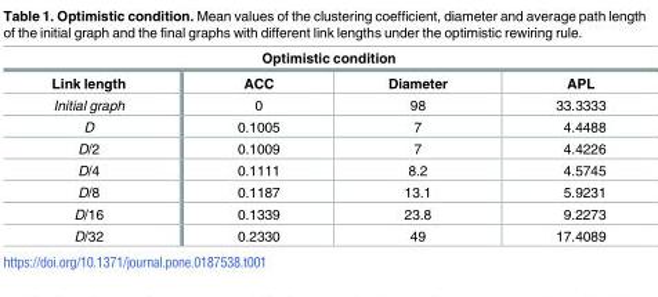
<table><thead><tr><td colspan="4">Optimistic condition</td></tr><tr><td>Link length</td><td>ACC</td><td>Diameter</td><td>APL</td></tr></thead><tbody><tr><td>Initial graph</td><td>0</td><td>98</td><td>33.3333</td></tr><tr><td>D</td><td>0.1005</td><td>7</td><td>4.4488</td></tr><tr><td>D/2</td><td>0.1009</td><td>7</td><td>4.4226</td></tr><tr><td>D/4</td><td>0.1111</td><td>8.2</td><td>4.5745</td></tr><tr><td>D/8</td><td>0.1187</td><td>13.1</td><td>5.9231</td></tr><tr><td>D/16</td><td>0.1339</td><td>23.8</td><td>9.2273</td></tr><tr><td>D/32</td><td>0.2330</td><td>49</td><td>17.4089</td></tr></tbody></table>